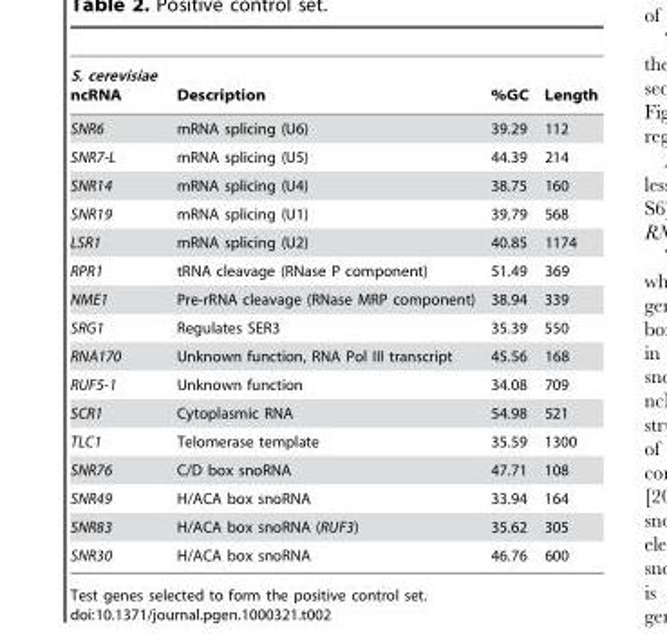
<table><thead><tr><td>S. cerevisiae ncRNA</td><td>Description</td><td>%GC</td><td>Length</td></tr></thead><tbody><tr><td>SNR6</td><td>mRNA splicing (U6)</td><td>39.29</td><td>112</td></tr><tr><td>SNR7-L</td><td>mRNA splicing (U5)</td><td>44.39</td><td>214</td></tr><tr><td>SNR14</td><td>mRNA splicing (U4)</td><td>38.75</td><td>160</td></tr><tr><td>SNR19</td><td>mRNA splicing (U1)</td><td>39.79</td><td>568</td></tr><tr><td>LSR1</td><td>mRNA splicing (U2)</td><td>40.85</td><td>1174</td></tr><tr><td>RPR1</td><td>tRNA cleavage (RNase P component)</td><td>51.49</td><td>369</td></tr><tr><td>NME1</td><td>Pre-rRNA cleavage (RNase MRP component)</td><td>38.94</td><td>339</td></tr><tr><td>SRG1</td><td>Regulates SER3</td><td>35.39</td><td>550</td></tr><tr><td>RNA170</td><td>Unknown function, RNA Pol III transcript</td><td>45.56</td><td>168</td></tr><tr><td>RUF5-1</td><td>Unknown function</td><td>34.08</td><td>709</td></tr><tr><td>SCR1</td><td>Cytoplasmic RNA</td><td>54.98</td><td>521</td></tr><tr><td>TLC1</td><td>Telomerase template</td><td>35.59</td><td>1300</td></tr><tr><td>SNR76</td><td>C/D box snoRNA</td><td>47.71</td><td>108</td></tr><tr><td>SNR49</td><td>H/ACA box snoRNA</td><td>33.94</td><td>164</td></tr><tr><td>SNR83</td><td>H/ACA box snoRNA (RUF3)</td><td>35.62</td><td>305</td></tr><tr><td>SNR30</td><td>H/ACA box snoRNA</td><td>46.76</td><td>600</td></tr></tbody></table>